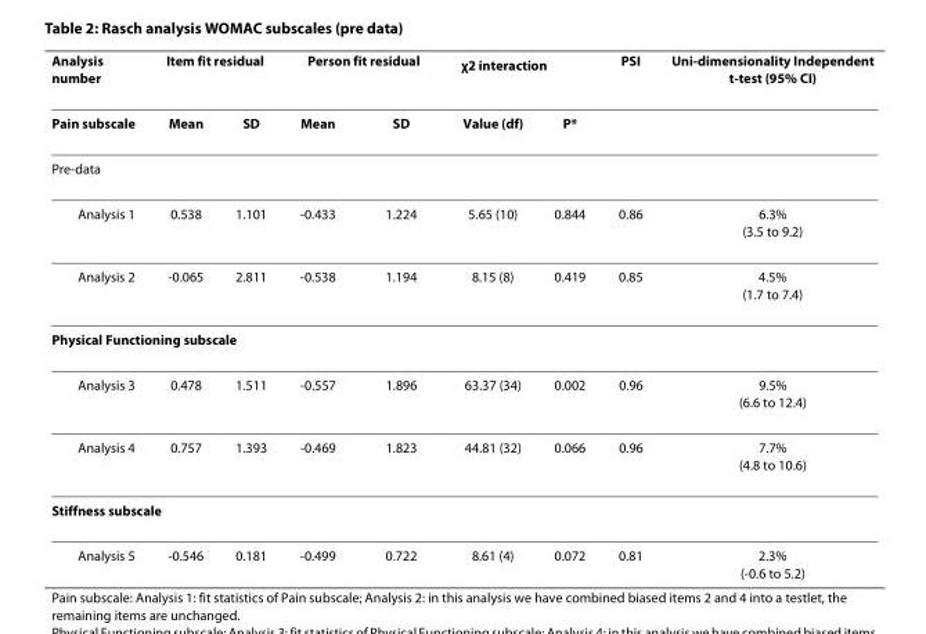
<table><thead><tr><td rowspan="2">Analysis number Pain subscale</td><td colspan="2">Item fit residual</td><td colspan="2">Person fit residual</td><td colspan="2">χ<sup>2</sup> interaction</td><td rowspan="2">PSI</td><td rowspan="2">Uni-dimensionality Independent t-test (95% CI)</td></tr><tr><td>Mean</td><td>SD</td><td>Mean</td><td>SD</td><td>Value (df)</td><td>P*</td></tr></thead><tbody><tr><td colspan="9">Pre-data</td></tr><tr><td>Analysis 1</td><td>0.538</td><td>1.101</td><td>-0.433</td><td>1.224</td><td>5.65 (10)</td><td>0.844</td><td>0.86</td><td>6.3% (3.5 to 9.2)</td></tr><tr><td>Analysis 2</td><td>-0.065</td><td>2.811</td><td>-0.538</td><td>1.194</td><td>8.15 (8)</td><td>0.419</td><td>0.85</td><td>4.5% (1.7 to 7.4)</td></tr><tr><td colspan="9">Physical Functioning subscale</td></tr><tr><td>Analysis 3</td><td>0.478</td><td>1.511</td><td>-0.557</td><td>1.896</td><td>63.37 (34)</td><td>0.002</td><td>0.96</td><td>9.5% (6.6 to 12.4)</td></tr><tr><td>Analysis 4</td><td>0.757</td><td>1.393</td><td>-0.469</td><td>1.823</td><td>44.81 (32)</td><td>0.066</td><td>0.96</td><td>7.7% (4.8 to 10.6)</td></tr><tr><td colspan="9">Stiffness subscale</td></tr><tr><td>Analysis 5</td><td>-0.546</td><td>0.181</td><td>-0.499</td><td>0.722</td><td>8.61 (4)</td><td>0.072</td><td>0.81</td><td>2.3% (-0.6 to 5.2)</td></tr></tbody></table>